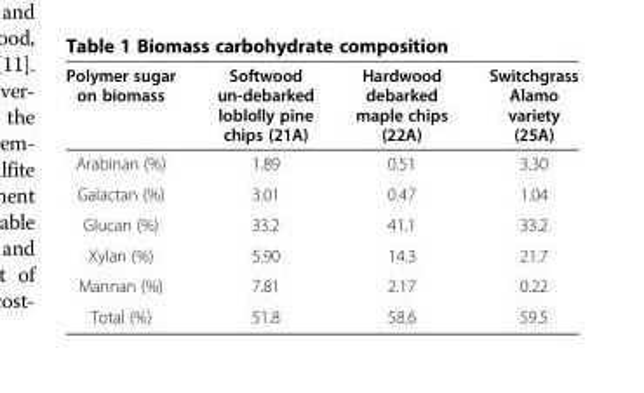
<table><thead><tr><td>Polymer sugar on biomass</td><td>Softwood un-debarked loblolly pine chips (21A)</td><td>Hardwood debarked maple chips (22A)</td><td>Switchgrass Alamo variety (25A)</td></tr></thead><tbody><tr><td>Arabinan (%)</td><td>1.89</td><td>0.51</td><td>3.30</td></tr><tr><td>Galactan (%)</td><td>3.01</td><td>0.47</td><td>1.04</td></tr><tr><td>Glucan (%)</td><td>33.2</td><td>41.1</td><td>33.2</td></tr><tr><td>Xylan (%)</td><td>5.90</td><td>14.3</td><td>21.7</td></tr><tr><td>Mannan (%)</td><td>7.81</td><td>2.17</td><td>0.22</td></tr><tr><td>Total (%)</td><td>51.8</td><td>58.6</td><td>59.5</td></tr></tbody></table>